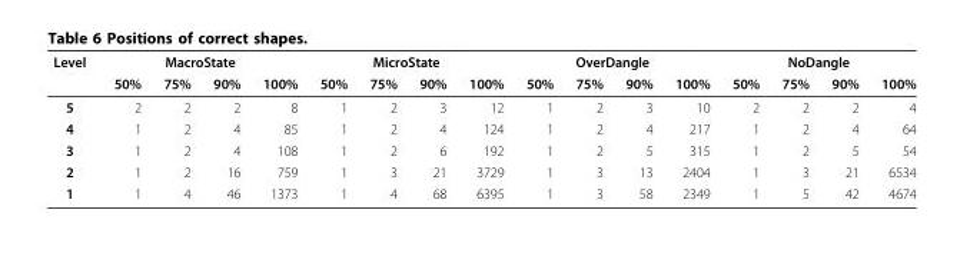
<table><thead><tr><td rowspan="2">Level</td><td colspan="4">MacroState</td><td colspan="4">MicroState</td><td colspan="4">OverDangle</td><td colspan="4">NoDangle</td></tr><tr><td>50%</td><td>75%</td><td>90%</td><td>100%</td><td>50%</td><td>75%</td><td>90%</td><td>100%</td><td>50%</td><td>75%</td><td>90%</td><td>100%</td><td>50%</td><td>75%</td><td>90%</td><td>100%</td></tr></thead><tbody><tr><td>5</td><td>2</td><td>2</td><td>2</td><td>8</td><td>1</td><td>2</td><td>3</td><td>12</td><td>1</td><td>2</td><td>3</td><td>10</td><td>2</td><td>2</td><td>2</td><td>4</td></tr><tr><td>4</td><td>1</td><td>2</td><td>4</td><td>85</td><td>1</td><td>2</td><td>4</td><td>124</td><td>1</td><td>2</td><td>4</td><td>217</td><td>1</td><td>2</td><td>4</td><td>64</td></tr><tr><td>3</td><td>1</td><td>2</td><td>4</td><td>108</td><td>1</td><td>2</td><td>6</td><td>192</td><td>1</td><td>2</td><td>5</td><td>315</td><td>1</td><td>2</td><td>5</td><td>54</td></tr><tr><td>2</td><td>1</td><td>2</td><td>16</td><td>759</td><td>1</td><td>3</td><td>21</td><td>3729</td><td>1</td><td>3</td><td>13</td><td>2404</td><td>1</td><td>3</td><td>21</td><td>6534</td></tr><tr><td>1</td><td>1</td><td>4</td><td>46</td><td>1373</td><td>1</td><td>4</td><td>68</td><td>6395</td><td>1</td><td>3</td><td>58</td><td>2349</td><td>1</td><td>5</td><td>42</td><td>4674</td></tr></tbody></table>